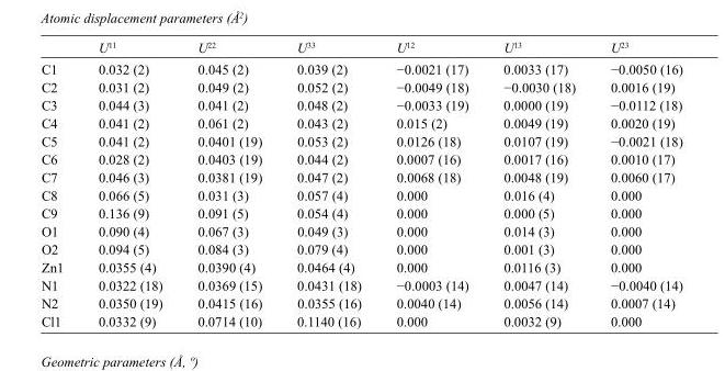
<table><thead><tr><td></td><td>U<sup>11</sup></td><td>U<sup>22</sup></td><td>U<sup>33</sup></td><td>U<sup>12</sup></td><td>U<sup>13</sup></td><td>U<sup>23</sup></td></tr></thead><tbody><tr><td>C1</td><td>0.032 (2)</td><td>0.045 (2)</td><td>0.039 (2)</td><td>−0.0021 (17)</td><td>0.0033 (17)</td><td>−0.0050 (16)</td></tr><tr><td>C2</td><td>0.031 (2)</td><td>0.049 (2)</td><td>0.052 (2)</td><td>−0.0049 (18)</td><td>−0.0030 (18)</td><td>0.0016 (19)</td></tr><tr><td>C3</td><td>0.044 (3)</td><td>0.041 (2)</td><td>0.048 (2)</td><td>−0.0033 (19)</td><td>0.0000 (19)</td><td>−0.0112 (18)</td></tr><tr><td>C4</td><td>0.041 (2)</td><td>0.061 (2)</td><td>0.043 (2)</td><td>0.015 (2)</td><td>0.0049 (19)</td><td>0.0020 (19)</td></tr><tr><td>C5</td><td>0.041 (2)</td><td>0.0401 (19)</td><td>0.053 (2)</td><td>0.0126 (18)</td><td>0.0107 (19)</td><td>−0.0021 (18)</td></tr><tr><td>C6</td><td>0.028 (2)</td><td>0.0403 (19)</td><td>0.044 (2)</td><td>0.0007 (16)</td><td>0.0017 (16)</td><td>0.0010 (17)</td></tr><tr><td>C7</td><td>0.046 (3)</td><td>0.0381 (19)</td><td>0.047 (2)</td><td>0.0068 (18)</td><td>0.0048 (19)</td><td>0.0060 (17)</td></tr><tr><td>C8</td><td>0.066 (5)</td><td>0.031 (3)</td><td>0.057 (4)</td><td>0.000</td><td>0.016 (4)</td><td>0.000</td></tr><tr><td>C9</td><td>0.136 (9)</td><td>0.091 (5)</td><td>0.054 (4)</td><td>0.000</td><td>0.000 (5)</td><td>0.000</td></tr><tr><td>O1</td><td>0.090 (4)</td><td>0.067 (3)</td><td>0.049 (3)</td><td>0.000</td><td>0.014 (3)</td><td>0.000</td></tr><tr><td>O2</td><td>0.094 (5)</td><td>0.084 (3)</td><td>0.079 (4)</td><td>0.000</td><td>0.001 (3)</td><td>0.000</td></tr><tr><td>Zn1</td><td>0.0355 (4)</td><td>0.0390 (4)</td><td>0.0464 (4)</td><td>0.000</td><td>0.0116 (3)</td><td>0.000</td></tr><tr><td>N1</td><td>0.0322 (18)</td><td>0.0369 (15)</td><td>0.0431 (18)</td><td>−0.0003 (14)</td><td>0.0047 (14)</td><td>−0.0040 (14)</td></tr><tr><td>N2</td><td>0.0350 (19)</td><td>0.0415 (16)</td><td>0.0355 (16)</td><td>0.0040 (14)</td><td>0.0056 (14)</td><td>0.0007 (14)</td></tr><tr><td>Cl1</td><td>0.0332 (9)</td><td>0.0714 (10)</td><td>0.1140 (16)</td><td>0.000</td><td>0.0032 (9)</td><td>0.000</td></tr></tbody></table>